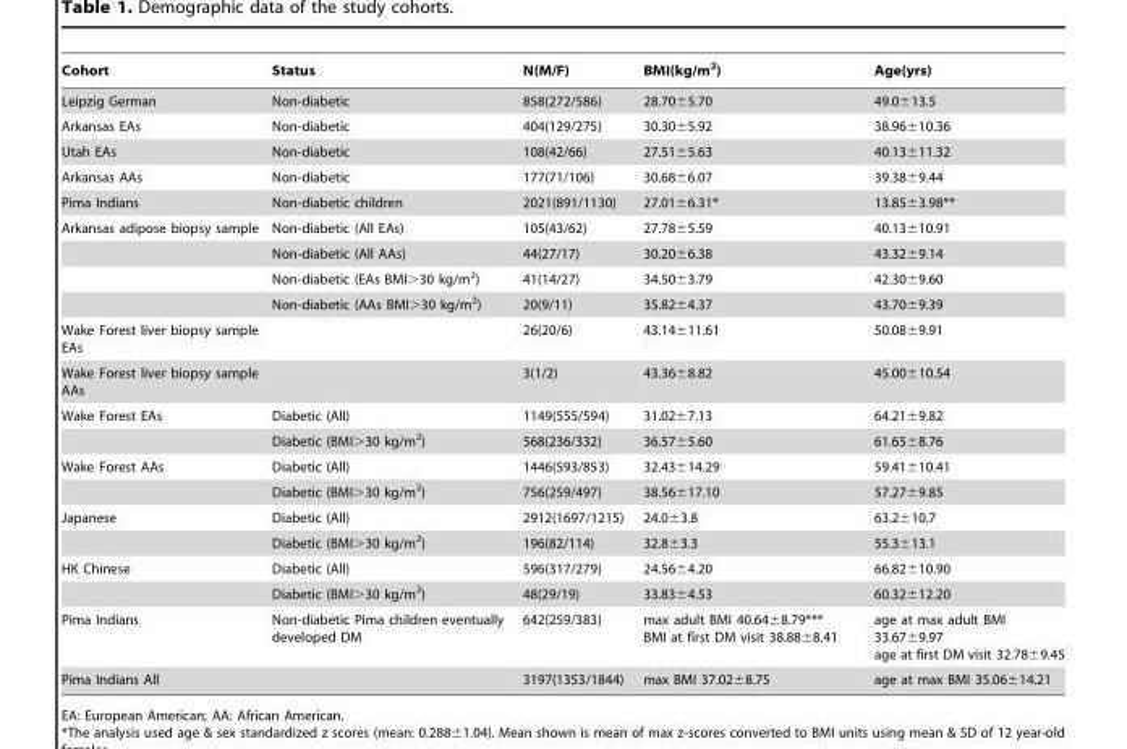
<table><thead><tr><td>Cohort</td><td>Status</td><td>N(M/F)</td><td>BMI(kg/m<sup>2</sup>)</td><td>Age(yrs)</td></tr></thead><tbody><tr><td>Leipzig German</td><td>Non-diabetic</td><td>858(272/586)</td><td>28.70±5.70</td><td>49.0±13.5</td></tr><tr><td>Arkansas EAs</td><td>Non-diabetic</td><td>404(129/275)</td><td>30.30±5.92</td><td>38.96±10.36</td></tr><tr><td>Utah EAs</td><td>Non-diabetic</td><td>108(42/66)</td><td>27.51±5.63</td><td>40.13±11.32</td></tr><tr><td>Arkansas AAs</td><td>Non-diabetic</td><td>177(71/106)</td><td>30.68±6.07</td><td>39.38±9.44</td></tr><tr><td>Pima Indians</td><td>Non-diabetic children</td><td>2021(891/1130)</td><td>27.01±6.31*</td><td>13.85±3.98**</td></tr><tr><td rowspan="4">Arkansas adipose biopsy sample</td><td>Non-diabetic (All EAs)</td><td>105(43/62)</td><td>27.78±5.59</td><td>40.13±10.91</td></tr><tr><td>Non-diabetic (All AAs)</td><td>44(27/17)</td><td>30.20±6.38</td><td>43.32±9.14</td></tr><tr><td>Non-diabetic (EAs BMI&gt;30 kg/m<sup>2</sup>)</td><td>41(14/27)</td><td>34.50±3.79</td><td>42.30±9.60</td></tr><tr><td>Non-diabetic (AAs BMI&gt;30 kg/m<sup>2</sup>)</td><td>20(9/11)</td><td>35.82±4.37</td><td>43.70±9.39</td></tr><tr><td>Wake Forest liver biopsy sample EAs</td><td></td><td>26(20/6)</td><td>43.14±11.61</td><td>50.08±9.91</td></tr><tr><td>Wake Forest liver biopsy sample AAs</td><td></td><td>3(1/2)</td><td>43.36±8.82</td><td>45.00±10.54</td></tr><tr><td rowspan="2">Wake Forest EAs</td><td>Diabetic (All)</td><td>1149(555/594)</td><td>31.02±7.13</td><td>64.21±9.82</td></tr><tr><td>Diabetic (BMI&gt;30 kg/m<sup>2</sup>)</td><td>568(236/332)</td><td>36.57±5.60</td><td>61.65±8.76</td></tr><tr><td rowspan="2">Wake Forest AAs</td><td>Diabetic (All)</td><td>1446(593/853)</td><td>32.43±14.29</td><td>59.41±10.41</td></tr><tr><td>Diabetic (BMI&gt;30 kg/m<sup>2</sup>)</td><td>756(259/497)</td><td>38.56±17.10</td><td>57.27±9.85</td></tr><tr><td rowspan="2">Japanese</td><td>Diabetic (All)</td><td>2912(1697/1215)</td><td>24.0±3.8</td><td>63.2±10.7</td></tr><tr><td>Diabetic (BMI&gt;30 kg/m<sup>2</sup>)</td><td>196(82/114)</td><td>32.8±3.3</td><td>55.3±13.1</td></tr><tr><td rowspan="2">HK Chinese</td><td>Diabetic (All)</td><td>596(317/279)</td><td>24.56±4.20</td><td>66.82±10.90</td></tr><tr><td>Diabetic (BMI&gt;30 kg/m<sup>2</sup>)</td><td>48(29/19)</td><td>33.83±4.53</td><td>60.32±12.20</td></tr><tr><td>Pima Indians</td><td>Non-diabetic Pima children eventually developed DM</td><td>642(259/383)</td><td>max adult BMI 40.64±8.79*** BMI at first DM visit 38.88±8.41</td><td>age at max adult BMI 33.67±9.97 age at first DM visit 32.78±9.45</td></tr><tr><td>Pima Indians All</td><td></td><td>3197(1353/1844)</td><td>max BMI 37.02±8.75</td><td>age at max BMI 35.06±14.21</td></tr></tbody></table>